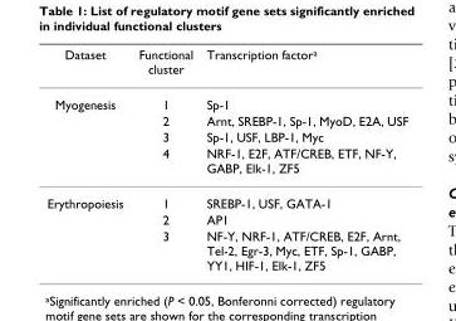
<table><thead><tr><td>Dataset</td><td>Functional cluster</td><td>Transcription factor<sup>a</sup></td></tr></thead><tbody><tr><td rowspan="4">Myogenesis</td><td>1</td><td>Sp-1</td></tr><tr><td>2</td><td>Arnt, SREBP-1, Sp-1, MyoD, E2A, USF</td></tr><tr><td>3</td><td>Sp-1, USF, LBP-1, Myc</td></tr><tr><td>4</td><td>NRF-1, E2F, ATF/CREB, ETF, NF-Y, GABP, Elk-1, ZF5</td></tr><tr><td rowspan="3">Erythropoiesis</td><td>1</td><td>SREBP-1, USF, GATA-1</td></tr><tr><td>2</td><td>AP1</td></tr><tr><td>3</td><td>NF-Y, NRF-1, ATF/CREB, E2F, Arnt, Tel-2, Egr-3, Myc, ETF, Sp-1, GABP, YY1, HIF-1, Elk-1, ZF5</td></tr></tbody></table>